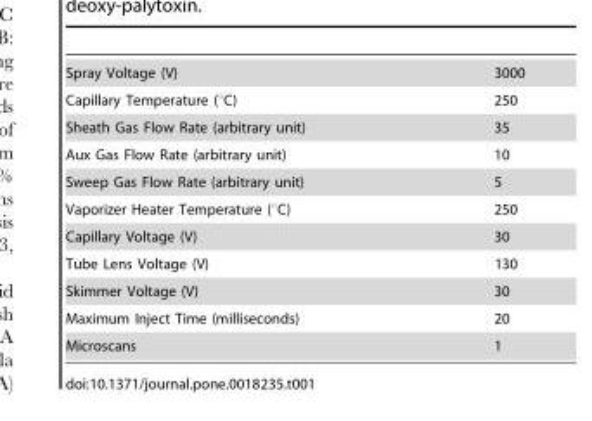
<table><tbody><tr><td>Spray Voltage (V)</td><td>3000</td></tr><tr><td>Capillary Temperature (°C)</td><td>250</td></tr><tr><td>Sheath Gas Flow Rate (arbitrary unit)</td><td>35</td></tr><tr><td>Aux Gas Flow Rate (arbitrary unit)</td><td>10</td></tr><tr><td>Sweep Gas Flow Rate (arbitrary unit)</td><td>5</td></tr><tr><td>Vaporizer Heater Temperature (°C)</td><td>250</td></tr><tr><td>Capillary Voltage (V)</td><td>30</td></tr><tr><td>Tube Lens Voltage (V)</td><td>130</td></tr><tr><td>Skimmer Voltage (V)</td><td>30</td></tr><tr><td>Maximum Inject Time (milliseconds)</td><td>20</td></tr><tr><td>Microscans</td><td>1</td></tr></tbody></table>